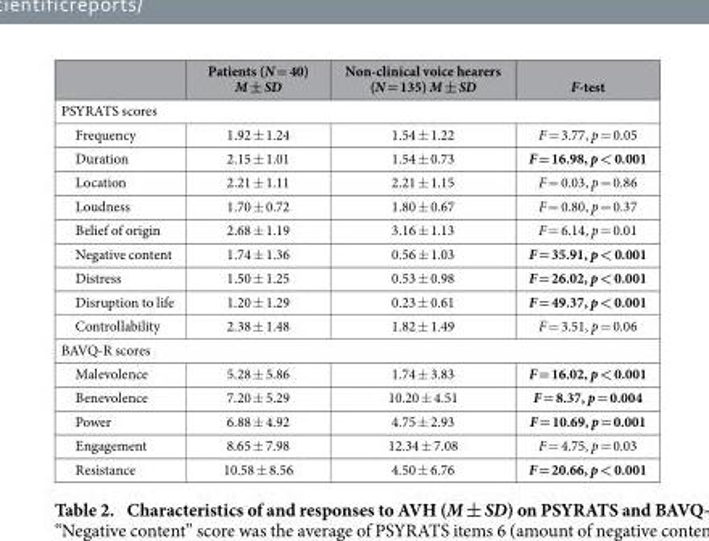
<table><thead><tr><td></td><td>Patients (N = 40) M ± SD</td><td>Non-clinical voice hearers (N = 135) M ± SD</td><td>F-test</td></tr></thead><tbody><tr><td colspan="4">PSYRATS scores</td></tr><tr><td>Frequency</td><td>1.92 ± 1.24</td><td>1.54 ± 1.22</td><td>F = 3.77, p = 0.05</td></tr><tr><td>Duration</td><td>2.15 ± 1.01</td><td>1.54 ± 0.73</td><td>F = 16.98, p &lt; 0.001</td></tr><tr><td>Location</td><td>2.21 ± 1.11</td><td>2.21 ± 1.15</td><td>F = 0.03, p = 0.86</td></tr><tr><td>Loudness</td><td>1.70 ± 0.72</td><td>1.80 ± 0.67</td><td>F = 0.80, p = 0.37</td></tr><tr><td>Belief of origin</td><td>2.68 ± 1.19</td><td>3.16 ± 1.13</td><td>F = 6.14, p = 0.01</td></tr><tr><td>Negative content</td><td>1.74 ± 1.36</td><td>0.56 ± 1.03</td><td>F = 35.91, p &lt; 0.001</td></tr><tr><td>Distress</td><td>1.50 ± 1.25</td><td>0.53 ± 0.98</td><td>F = 26.02, p &lt; 0.001</td></tr><tr><td>Disruption to life</td><td>1.20 ± 1.29</td><td>0.23 ± 0.61</td><td>F = 49.37, p &lt; 0.001</td></tr><tr><td>Controllability</td><td>2.38 ± 1.48</td><td>1.82 ± 1.49</td><td>F = 3.51, p = 0.06</td></tr><tr><td colspan="4">BAVQ-R scores</td></tr><tr><td>Malevolence</td><td>5.28 ± 5.86</td><td>1.74 ± 3.83</td><td>F = 16.02, p &lt; 0.001</td></tr><tr><td>Benevolence</td><td>7.20 ± 5.29</td><td>10.20 ± 4.51</td><td>F = 8.37, p = 0.004</td></tr><tr><td>Power</td><td>6.88 ± 4.92</td><td>4.75 ± 2.93</td><td>F = 10.69, p = 0.001</td></tr><tr><td>Engagement</td><td>8.65 ± 7.98</td><td>12.34 ± 7.08</td><td>F = 4.75, p = 0.03</td></tr><tr><td>Resistance</td><td>10.58 ± 8.56</td><td>4.50 ± 6.76</td><td>F = 20.66, p &lt; 0.001</td></tr></tbody></table>